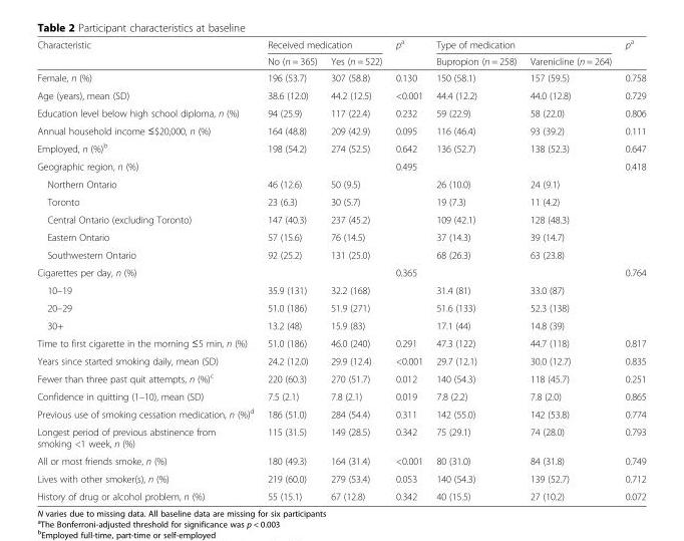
<table><thead><tr><td rowspan="2">Characteristic</td><td colspan="2">Received medication</td><td rowspan="2">p<sup>a</sup></td><td colspan="2">Type of medication</td><td rowspan="2">p<sup>a</sup></td></tr><tr><td>No (n = 365)</td><td>Yes (n = 522)</td><td>Bupropion (n = 258)</td><td>Varenicline (n = 264)</td></tr></thead><tbody><tr><td>Female, n (%)</td><td>196 (53.7)</td><td>307 (58.8)</td><td>0.130</td><td>150 (58.1)</td><td>157 (59.5)</td><td>0.758</td></tr><tr><td>Age (years), mean (SD)</td><td>38.6 (12.0)</td><td>44.2 (12.5)</td><td>&lt;0.001</td><td>44.4 (12.2)</td><td>44.0 (12.8)</td><td>0.729</td></tr><tr><td>Education level below high school diploma, n (%)</td><td>94 (25.9)</td><td>117 (22.4)</td><td>0.232</td><td>59 (22.9)</td><td>58 (22.0)</td><td>0.806</td></tr><tr><td>Annual household income ≤$20,000, n (%)</td><td>164 (48.8)</td><td>209 (42.9)</td><td>0.095</td><td>116 (46.4)</td><td>93 (39.2)</td><td>0.111</td></tr><tr><td>Employed, n (%)<sup>b</sup></td><td>198 (54.2)</td><td>274 (52.5)</td><td>0.642</td><td>136 (52.7)</td><td>138 (52.3)</td><td>0.647</td></tr><tr><td>Geographic region, n (%)</td><td></td><td></td><td>0.495</td><td></td><td></td><td>0.418</td></tr><tr><td>Northern Ontario</td><td>46 (12.6)</td><td>50 (9.5)</td><td></td><td>26 (10.0)</td><td>24 (9.1)</td><td></td></tr><tr><td>Toronto</td><td>23 (6.3)</td><td>30 (5.7)</td><td></td><td>19 (7.3)</td><td>11 (4.2)</td><td></td></tr><tr><td>Central Ontario (excluding Toronto)</td><td>147 (40.3)</td><td>237 (45.2)</td><td></td><td>109 (42.1)</td><td>128 (48.3)</td><td></td></tr><tr><td>Eastern Ontario</td><td>57 (15.6)</td><td>76 (14.5)</td><td></td><td>37 (14.3)</td><td>39 (14.7)</td><td></td></tr><tr><td>Southwestern Ontario</td><td>92 (25.2)</td><td>131 (25.0)</td><td></td><td>68 (26.3)</td><td>63 (23.8)</td><td></td></tr><tr><td>Cigarettes per day, n (%)</td><td></td><td></td><td>0.365</td><td></td><td></td><td>0.764</td></tr><tr><td>10–19</td><td>35.9 (131)</td><td>32.2 (168)</td><td></td><td>31.4 (81)</td><td>33.0 (87)</td><td></td></tr><tr><td>20–29</td><td>51.0 (186)</td><td>51.9 (271)</td><td></td><td>51.6 (133)</td><td>52.3 (138)</td><td></td></tr><tr><td>30+</td><td>13.2 (48)</td><td>15.9 (83)</td><td></td><td>17.1 (44)</td><td>14.8 (39)</td><td></td></tr><tr><td>Time to first cigarette in the morning ≤5 min, n (%)</td><td>51.0 (186)</td><td>46.0 (240)</td><td>0.291</td><td>47.3 (122)</td><td>44.7 (118)</td><td>0.817</td></tr><tr><td>Years since started smoking daily, mean (SD)</td><td>24.2 (12.0)</td><td>29.9 (12.4)</td><td>&lt;0.001</td><td>29.7 (12.1)</td><td>30.0 (12.7)</td><td>0.835</td></tr><tr><td>Fewer than three past quit attempts, n (%)<sup>c</sup></td><td>220 (60.3)</td><td>270 (51.7)</td><td>0.012</td><td>140 (54.3)</td><td>118 (45.7)</td><td>0.251</td></tr><tr><td>Confidence in quitting (1–10), mean (SD)</td><td>7.5 (2.1)</td><td>7.8 (2.1)</td><td>0.019</td><td>7.8 (2.2)</td><td>7.8 (2.0)</td><td>0.865</td></tr><tr><td>Previous use of smoking cessation medication, n (%)<sup>d</sup></td><td>186 (51.0)</td><td>284 (54.4)</td><td>0.311</td><td>142 (55.0)</td><td>142 (53.8)</td><td>0.774</td></tr><tr><td>Longest period of previous abstinence from smoking &lt;1 week, n (%)</td><td>115 (31.5)</td><td>149 (28.5)</td><td>0.342</td><td>75 (29.1)</td><td>74 (28.0)</td><td>0.793</td></tr><tr><td>All or most friends smoke, n (%)</td><td>180 (49.3)</td><td>164 (31.4)</td><td>&lt;0.001</td><td>80 (31.0)</td><td>84 (31.8)</td><td>0.749</td></tr><tr><td>Lives with other smoker(s), n (%)</td><td>219 (60.0)</td><td>279 (53.4)</td><td>0.053</td><td>140 (54.3)</td><td>139 (52.7)</td><td>0.712</td></tr><tr><td>History of drug or alcohol problem, n (%)</td><td>55 (15.1)</td><td>67 (12.8)</td><td>0.342</td><td>40 (15.5)</td><td>27 (10.2)</td><td>0.072</td></tr></tbody></table>